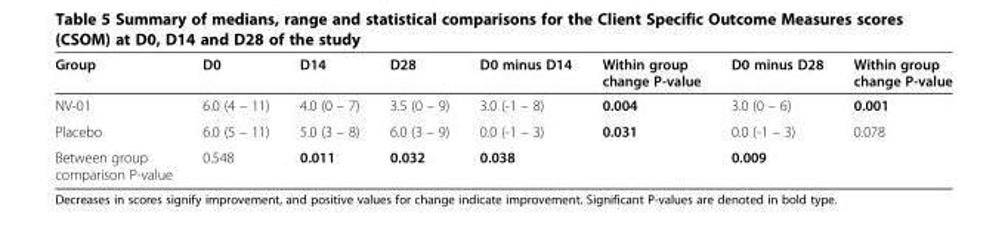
<table><thead><tr><td>Group</td><td>D0</td><td>D14</td><td>D28</td><td>D0 minus D14</td><td>Within group change P-value</td><td>D0 minus D28</td><td>Within group change P-value</td></tr></thead><tbody><tr><td>NV-01</td><td>6.0 (4 – 11)</td><td>4.0 (0 – 7)</td><td>3.5 (0 – 9)</td><td>3.0 (-1 – 8)</td><td>0.004</td><td>3.0 (0 – 6)</td><td>0.001</td></tr><tr><td>Placebo</td><td>6.0 (5 – 11)</td><td>5.0 (3 – 8)</td><td>6.0 (3 – 9)</td><td>0.0 (-1 – 3)</td><td>0.031</td><td>0.0 (-1 – 3)</td><td>0.078</td></tr><tr><td>Between group comparison P-value</td><td>0.548</td><td>0.011</td><td>0.032</td><td>0.038</td><td></td><td>0.009</td><td></td></tr></tbody></table>